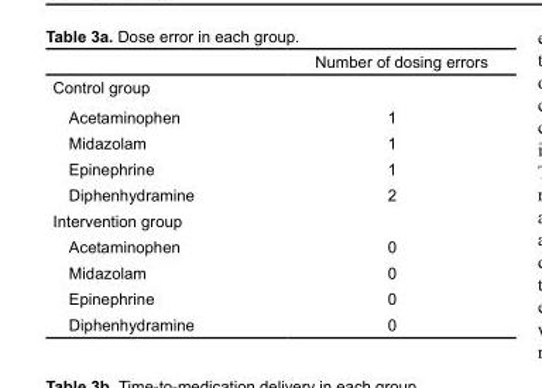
<table><thead><tr><td></td><td>Number of dosing errors</td></tr></thead><tbody><tr><td colspan="2">Control group</td></tr><tr><td>Acetaminophen</td><td>1</td></tr><tr><td>Midazolam</td><td>1</td></tr><tr><td>Epinephrine</td><td>1</td></tr><tr><td>Diphenhydramine</td><td>2</td></tr><tr><td colspan="2">Intervention group</td></tr><tr><td>Acetaminophen</td><td>0</td></tr><tr><td>Midazolam</td><td>0</td></tr><tr><td>Epinephrine</td><td>0</td></tr><tr><td>Diphenhydramine</td><td>0</td></tr></tbody></table>